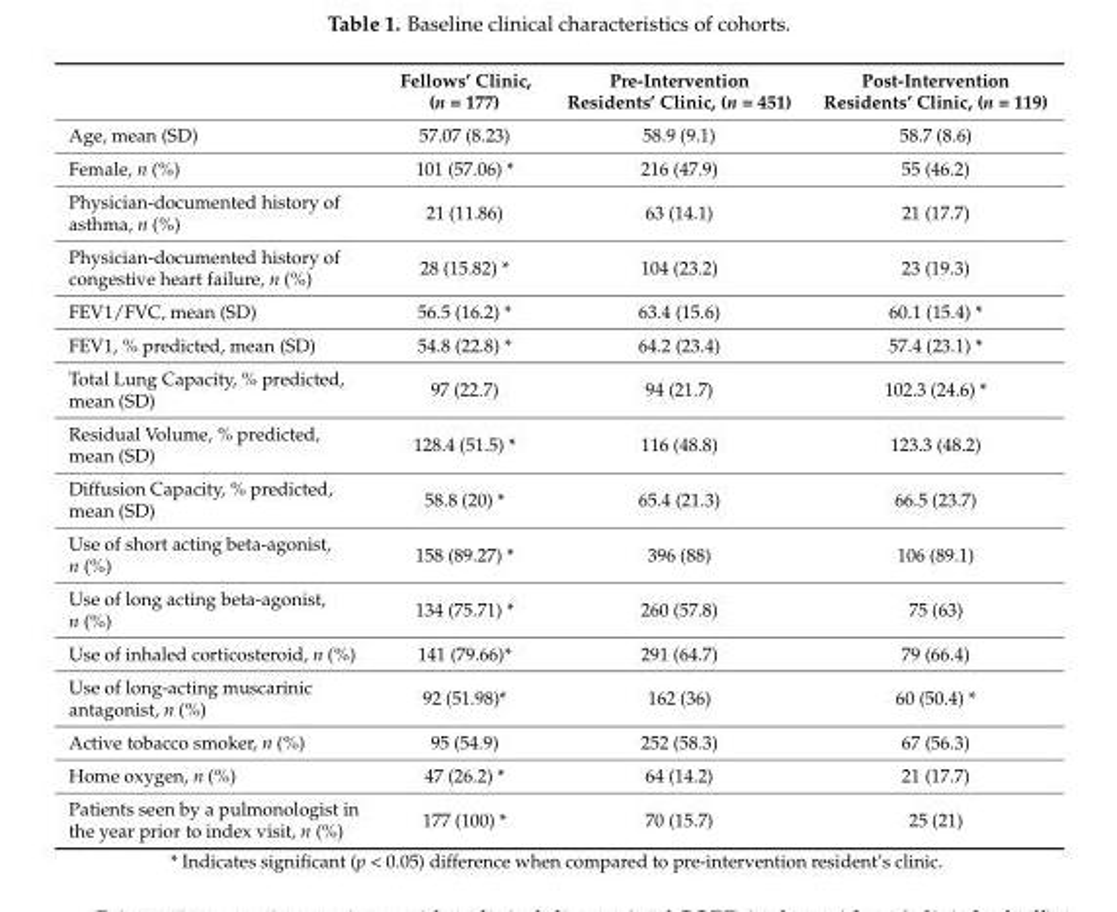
<table><thead><tr><td></td><td>Fellows’ Clinic, (n = 177)</td><td>Pre-Intervention Residents’ Clinic, (n = 451)</td><td>Post-Intervention Residents’ Clinic, (n = 119)</td></tr></thead><tbody><tr><td>Age, mean (SD)</td><td>57.07 (8.23)</td><td>58.9 (9.1)</td><td>58.7 (8.6)</td></tr><tr><td>Female, n (%)</td><td>101 (57.06) *</td><td>216 (47.9)</td><td>55 (46.2)</td></tr><tr><td>Physician-documented history of asthma, n (%)</td><td>21 (11.86)</td><td>63 (14.1)</td><td>21 (17.7)</td></tr><tr><td>Physician-documented history of congestive heart failure, n (%)</td><td>28 (15.82) *</td><td>104 (23.2)</td><td>23 (19.3)</td></tr><tr><td>FEV1/FVC, mean (SD)</td><td>56.5 (16.2) *</td><td>63.4 (15.6)</td><td>60.1 (15.4) *</td></tr><tr><td>FEV1, % predicted, mean (SD)</td><td>54.8 (22.8) *</td><td>64.2 (23.4)</td><td>57.4 (23.1) *</td></tr><tr><td>Total Lung Capacity, % predicted, mean (SD)</td><td>97 (22.7)</td><td>94 (21.7)</td><td>102.3 (24.6) *</td></tr><tr><td>Residual Volume, % predicted, mean (SD)</td><td>128.4 (51.5) *</td><td>116 (48.8)</td><td>123.3 (48.2)</td></tr><tr><td>Diffusion Capacity, % predicted, mean (SD)</td><td>58.8 (20) *</td><td>65.4 (21.3)</td><td>66.5 (23.7)</td></tr><tr><td>Use of short acting beta-agonist, n (%)</td><td>158 (89.27) *</td><td>396 (88)</td><td>106 (89.1)</td></tr><tr><td>Use of long acting beta-agonist, n (%)</td><td>134 (75.71) *</td><td>260 (57.8)</td><td>75 (63)</td></tr><tr><td>Use of inhaled corticosteroid, n (%)</td><td>141 (79.66)*</td><td>291 (64.7)</td><td>79 (66.4)</td></tr><tr><td>Use of long-acting muscarinic antagonist, n (%)</td><td>92 (51.98)*</td><td>162 (36)</td><td>60 (50.4) *</td></tr><tr><td>Active tobacco smoker, n (%)</td><td>95 (54.9)</td><td>252 (58.3)</td><td>67 (56.3)</td></tr><tr><td>Home oxygen, n (%)</td><td>47 (26.2) *</td><td>64 (14.2)</td><td>21 (17.7)</td></tr><tr><td>Patients seen by a pulmonologist in the year prior to index visit, n (%)</td><td>177 (100) *</td><td>70 (15.7)</td><td>25 (21)</td></tr></tbody></table>